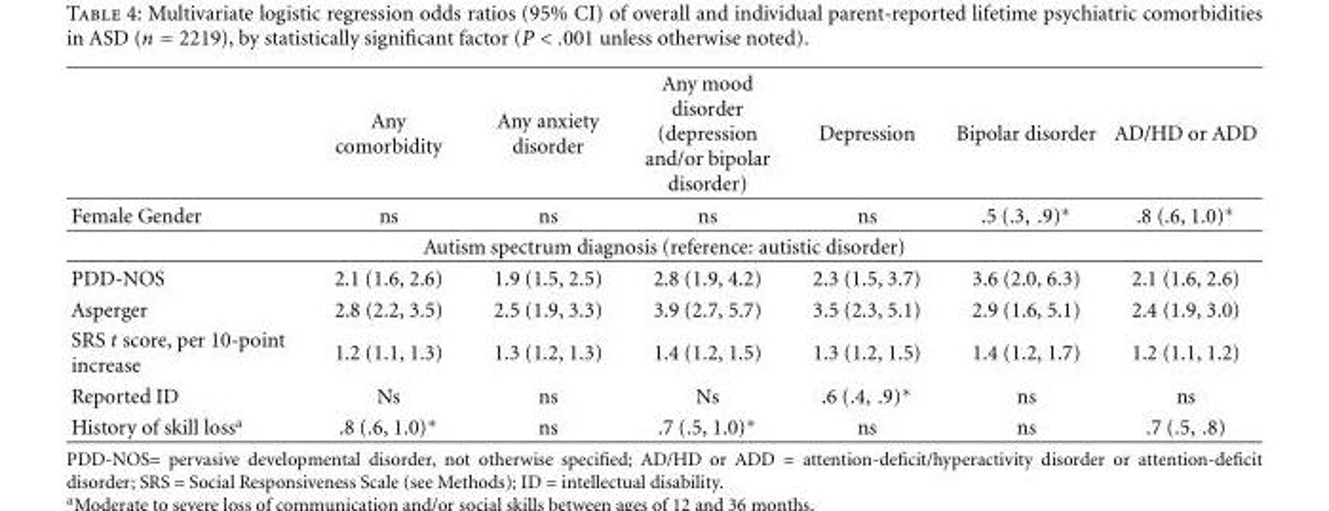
<table><thead><tr><td></td><td>Any comorbidity</td><td>Any anxiety disorder</td><td>Any mood disorder (depression and/or bipolar disorder)</td><td>Depression</td><td>Bipolar disorder</td><td>AD/HD or ADD</td></tr></thead><tbody><tr><td>Female Gender</td><td>ns</td><td>ns</td><td>ns</td><td>ns</td><td>.5 (.3, .9)∗</td><td>.8 (.6, 1.0)∗</td></tr><tr><td colspan="7">Autism spectrum diagnosis (reference: autistic disorder)</td></tr><tr><td>PDD-NOS</td><td>2.1 (1.6, 2.6)</td><td>1.9 (1.5, 2.5)</td><td>2.8 (1.9, 4.2)</td><td>2.3 (1.5, 3.7)</td><td>3.6 (2.0, 6.3)</td><td>2.1 (1.6, 2.6)</td></tr><tr><td>Asperger</td><td>2.8 (2.2, 3.5)</td><td>2.5 (1.9, 3.3)</td><td>3.9 (2.7, 5.7)</td><td>3.5 (2.3, 5.1)</td><td>2.9 (1.6, 5.1)</td><td>2.4 (1.9, 3.0)</td></tr><tr><td>SRS t score, per 10-point increase</td><td>1.2 (1.1, 1.3)</td><td>1.3 (1.2, 1.3)</td><td>1.4 (1.2, 1.5)</td><td>1.3 (1.2, 1.5)</td><td>1.4 (1.2, 1.7)</td><td>1.2 (1.1, 1.2)</td></tr><tr><td>Reported ID</td><td>Ns</td><td>ns</td><td>Ns</td><td>.6 (.4, .9)∗</td><td>ns</td><td>ns</td></tr><tr><td>History of skill loss<sup>a</sup></td><td>.8 (.6, 1.0)∗</td><td>ns</td><td>.7 (.5, 1.0)∗</td><td>ns</td><td>ns</td><td>.7 (.5, .8)</td></tr></tbody></table>